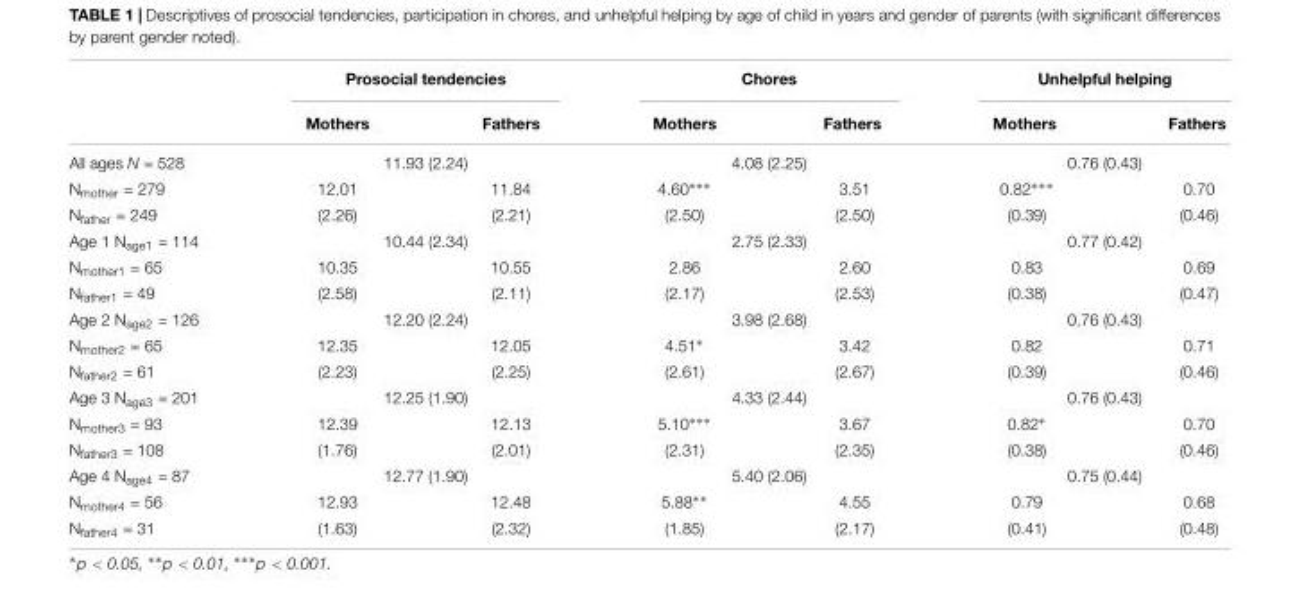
<table><thead><tr><td rowspan="2"></td><td colspan="2">Prosocial tendencies</td><td colspan="2">Chores</td><td colspan="2">Unhelpful helping</td></tr><tr><td>Mothers</td><td>Fathers</td><td>Mothers</td><td>Fathers</td><td>Mothers</td><td>Fathers</td></tr></thead><tbody><tr><td>All ages N = 528</td><td colspan="2">11.93 (2.24)</td><td colspan="2">4.08 (2.25)</td><td colspan="2">0.76 (0.43)</td></tr><tr><td>N<sub>mother</sub> = 279</td><td>12.01</td><td>11.84</td><td>4.60∗∗∗</td><td>3.51</td><td>0.82∗∗∗</td><td>0.70</td></tr><tr><td>N<sub>father</sub> = 249</td><td>(2.26)</td><td>(2.21)</td><td>(2.50)</td><td>(2.50)</td><td>(0.39)</td><td>(0.46)</td></tr><tr><td>Age 1 N<sub>age1</sub> = 114</td><td colspan="2">10.44 (2.34)</td><td colspan="2">2.75 (2.33)</td><td colspan="2">0.77 (0.42)</td></tr><tr><td>N<sub>mother1</sub> = 65</td><td>10.35</td><td>10.55</td><td>2.86</td><td>2.60</td><td>0.83</td><td>0.69</td></tr><tr><td>N<sub>father1</sub> = 49</td><td>(2.58)</td><td>(2.11)</td><td>(2.17)</td><td>(2.53)</td><td>(0.38)</td><td>(0.47)</td></tr><tr><td>Age 2 N<sub>age2</sub> = 126</td><td colspan="2">12.20 (2.24)</td><td colspan="2">3.98 (2.68)</td><td colspan="2">0.76 (0.43)</td></tr><tr><td>N<sub>mother2</sub> = 65</td><td>12.35</td><td>12.05</td><td>4.51∗</td><td>3.42</td><td>0.82</td><td>0.71</td></tr><tr><td>N<sub>father2</sub> = 61</td><td>(2.23)</td><td>(2.25)</td><td>(2.61)</td><td>(2.67)</td><td>(0.39)</td><td>(0.46)</td></tr><tr><td>Age 3 N<sub>age3</sub> = 201</td><td colspan="2">12.25 (1.90)</td><td colspan="2">4.33 (2.44)</td><td colspan="2">0.76 (0.43)</td></tr><tr><td>N<sub>mother3</sub> = 93</td><td>12.39</td><td>12.13</td><td>5.10∗∗∗</td><td>3.67</td><td>0.82∗</td><td>0.70</td></tr><tr><td>N<sub>father3</sub> = 108</td><td>(1.76)</td><td>(2.01)</td><td>(2.31)</td><td>(2.35)</td><td>(0.38)</td><td>(0.46)</td></tr><tr><td>Age 4 N<sub>age4</sub> = 87</td><td colspan="2">12.77 (1.90)</td><td colspan="2">5.40 (2.06)</td><td colspan="2">0.75 (0.44)</td></tr><tr><td>N<sub>mother4</sub> = 56</td><td>12.93</td><td>12.48</td><td>5.88∗∗</td><td>4.55</td><td>0.79</td><td>0.68</td></tr><tr><td>N<sub>father4</sub> = 31</td><td>(1.63)</td><td>(2.32)</td><td>(1.85)</td><td>(2.17)</td><td>(0.41)</td><td>(0.48)</td></tr></tbody></table>